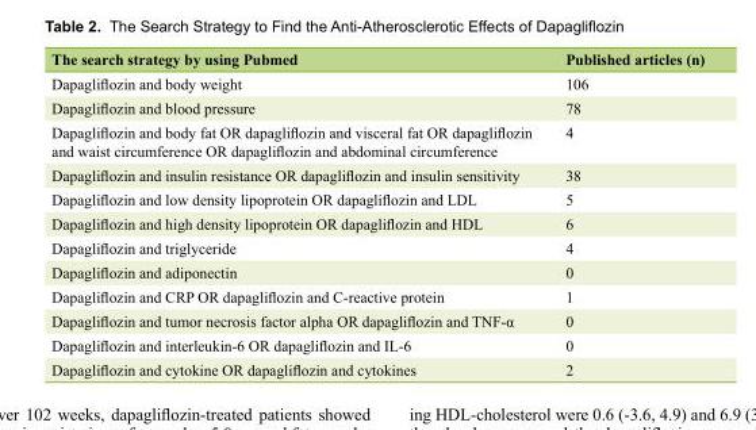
<table><thead><tr><td>The search strategy by using Pubmed</td><td>Published articles (n)</td></tr></thead><tbody><tr><td>Dapagliflozin and body weight</td><td>106</td></tr><tr><td>Dapagliflozin and blood pressure</td><td>78</td></tr><tr><td>Dapagliflozin and body fat OR dapagliflozin and visceral fat OR dapagliflozin and waist circumference OR dapagliflozin and abdominal circumference</td><td>4</td></tr><tr><td>Dapagliflozin and insulin resistance OR dapagliflozin and insulin sensitivity</td><td>38</td></tr><tr><td>Dapagliflozin and low density lipoprotein OR dapagliflozin and LDL</td><td>5</td></tr><tr><td>Dapagliflozin and high density lipoprotein OR dapagliflozin and HDL</td><td>6</td></tr><tr><td>Dapagliflozin and triglyceride</td><td>4</td></tr><tr><td>Dapagliflozin and adiponectin</td><td>0</td></tr><tr><td>Dapagliflozin and CRP OR dapagliflozin and C-reactive protein</td><td>1</td></tr><tr><td>Dapagliflozin and tumor necrosis factor alpha OR dapagliflozin and TNF-α</td><td>0</td></tr><tr><td>Dapagliflozin and interleukin-6 OR dapagliflozin and IL-6</td><td>0</td></tr><tr><td>Dapagliflozin and cytokine OR dapagliflozin and cytokines</td><td>2</td></tr></tbody></table>